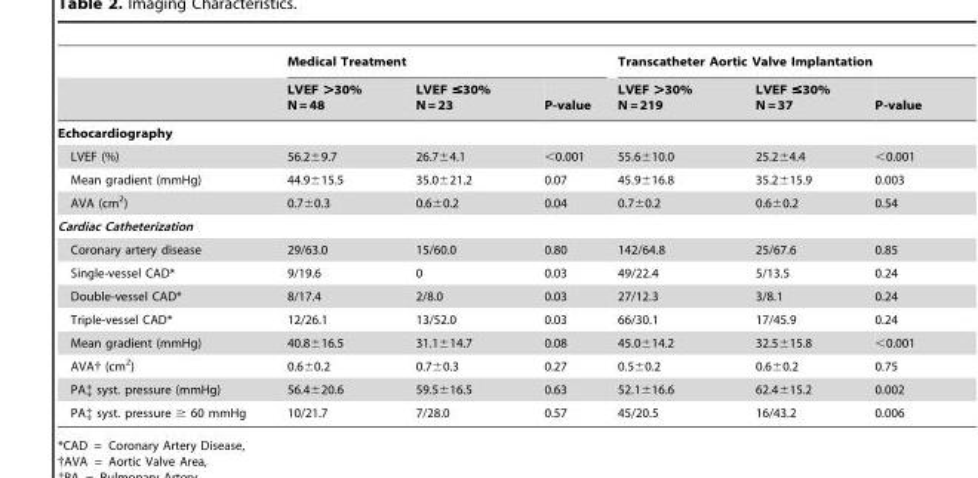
<table><thead><tr><td rowspan="2"></td><td colspan="3">Medical Treatment</td><td colspan="3">Transcatheter Aortic Valve Implantation</td></tr><tr><td>LVEF &gt;30% N = 48</td><td>LVEF ≤30% N = 23</td><td>P-value</td><td>LVEF &gt;30% N = 219</td><td>LVEF ≤30% N = 37</td><td>P-value</td></tr></thead><tbody><tr><td colspan="7">Echocardiography</td></tr><tr><td>LVEF (%)</td><td>56.2±9.7</td><td>26.7±4.1</td><td>&lt;0.001</td><td>55.6±10.0</td><td>25.2±4.4</td><td>&lt;0.001</td></tr><tr><td>Mean gradient (mmHg)</td><td>44.9±15.5</td><td>35.0±21.2</td><td>0.07</td><td>45.9±16.8</td><td>35.2±15.9</td><td>0.003</td></tr><tr><td>AVA (cm<sup>2</sup>)</td><td>0.7±0.3</td><td>0.6±0.2</td><td>0.04</td><td>0.7±0.2</td><td>0.6±0.2</td><td>0.54</td></tr><tr><td colspan="7">Cardiac Catheterization</td></tr><tr><td>Coronary artery disease</td><td>29/63.0</td><td>15/60.0</td><td>0.80</td><td>142/64.8</td><td>25/67.6</td><td>0.85</td></tr><tr><td>Single-vessel CAD*</td><td>9/19.6</td><td>0</td><td>0.03</td><td>49/22.4</td><td>5/13.5</td><td>0.24</td></tr><tr><td>Double-vessel CAD*</td><td>8/17.4</td><td>2/8.0</td><td>0.03</td><td>27/12.3</td><td>3/8.1</td><td>0.24</td></tr><tr><td>Triple-vessel CAD*</td><td>12/26.1</td><td>13/52.0</td><td>0.03</td><td>66/30.1</td><td>17/45.9</td><td>0.24</td></tr><tr><td>Mean gradient (mmHg)</td><td>40.8±16.5</td><td>31.1±14.7</td><td>0.08</td><td>45.0±14.2</td><td>32.5±15.8</td><td>&lt;0.001</td></tr><tr><td>AVA† (cm<sup>2</sup>)</td><td>0.6±0.2</td><td>0.7±0.3</td><td>0.27</td><td>0.5±0.2</td><td>0.6±0.2</td><td>0.75</td></tr><tr><td>PA‡ syst. pressure (mmHg)</td><td>56.4±20.6</td><td>59.5±16.5</td><td>0.63</td><td>52.1±16.6</td><td>62.4±15.2</td><td>0.002</td></tr><tr><td>PA‡ syst. pressure ≥ 60 mmHg</td><td>10/21.7</td><td>7/28.0</td><td>0.57</td><td>45/20.5</td><td>16/43.2</td><td>0.006</td></tr></tbody></table>